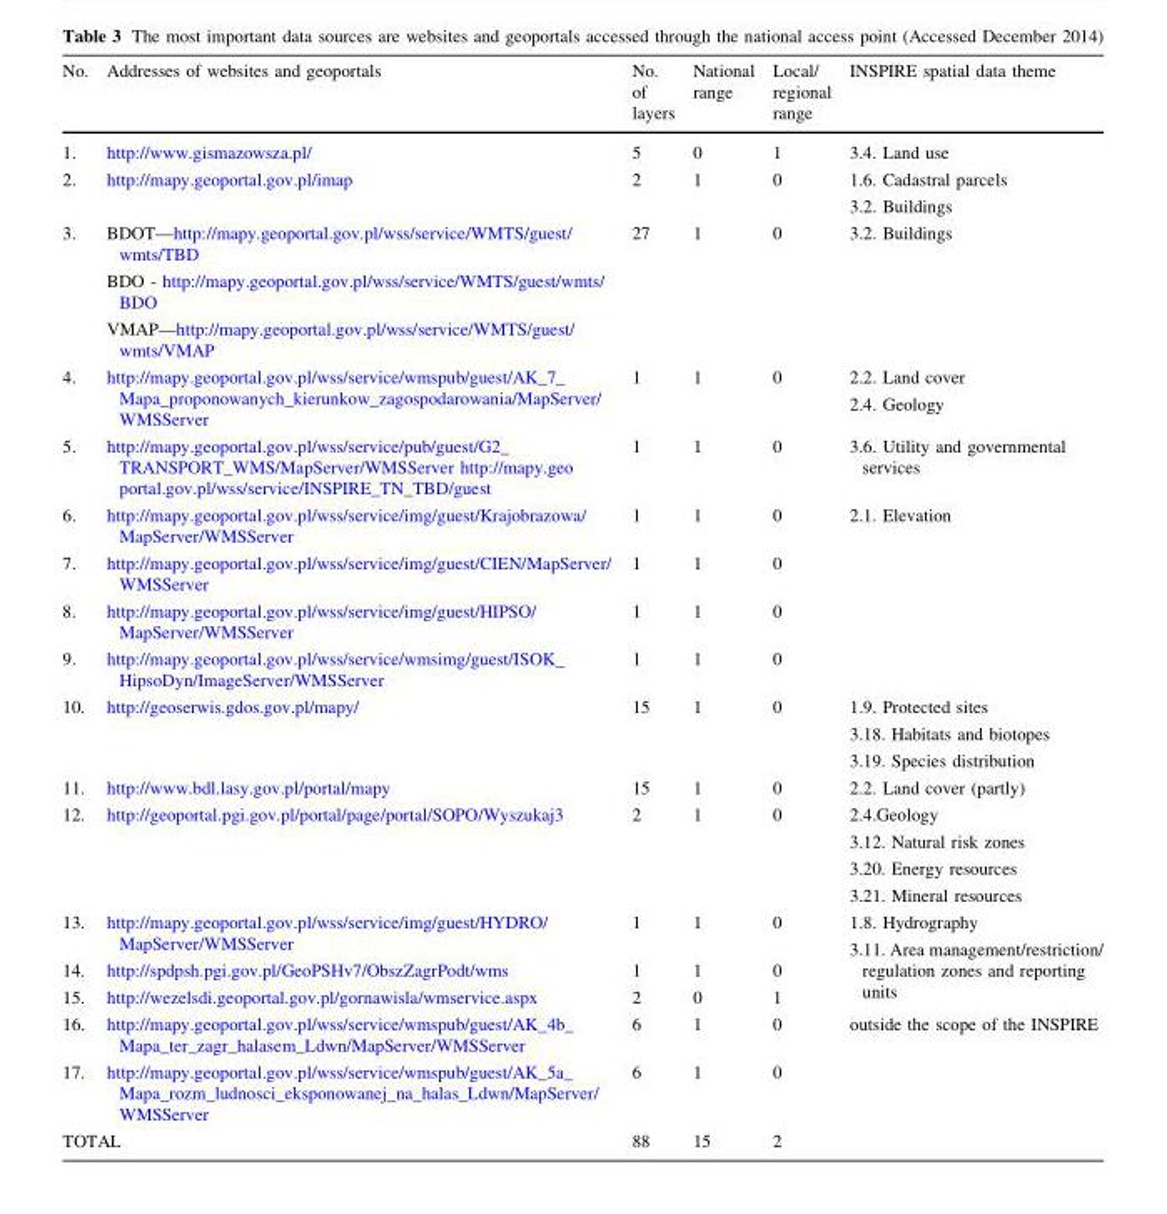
<table><thead><tr><td>No.</td><td>Addresses of websites and geoportals</td><td>No. of layers</td><td>National range</td><td>Local/ regional range</td><td>INSPIRE spatial data theme</td></tr></thead><tbody><tr><td>1.</td><td>http://www.gismazowsza.pl/</td><td>5</td><td>0</td><td>1</td><td>3.4. Land use</td></tr><tr><td>2.</td><td>http://mapy.geoportal.gov.pl/imap</td><td>2</td><td>1</td><td>0</td><td>1.6. Cadastral parcels 3.2. Buildings</td></tr><tr><td>3.</td><td>BDOT—http://mapy.geoportal.gov.pl/wss/service/WMTS/guest/ wmts/TBD BDO - http://mapy.geoportal.gov.pl/wss/service/WMTS/guest/wmts/ BDO VMAP—http://mapy.geoportal.gov.pl/wss/service/WMTS/guest/ wmts/VMAP</td><td>27</td><td>1</td><td>0</td><td>3.2. Buildings</td></tr><tr><td>4.</td><td>http://mapy.geoportal.gov.pl/wss/service/wmspub/guest/AK_7_ Mapa_proponowanych_kierunkow_zagospodarowania/MapServer/ WMSServer</td><td>1</td><td>1</td><td>0</td><td>2.2. Land cover 2.4. Geology</td></tr><tr><td>5.</td><td>http://mapy.geoportal.gov.pl/wss/service/pub/guest/G2_ TRANSPORT_WMS/MapServer/WMSServer http://mapy.geo portal.gov.pl/wss/service/INSPIRE_TN_TBD/guest</td><td>1</td><td>1</td><td>0</td><td>3.6. Utility and governmental services</td></tr><tr><td>6.</td><td>http://mapy.geoportal.gov.pl/wss/service/img/guest/Krajobrazowa/ MapServer/WMSServer</td><td>1</td><td>1</td><td>0</td><td rowspan="4">2.1. Elevation</td></tr><tr><td>7.</td><td>http://mapy.geoportal.gov.pl/wss/service/img/guest/CIEN/MapServer/ WMSServer</td><td>1</td><td>1</td><td>0</td></tr><tr><td>8.</td><td>http://mapy.geoportal.gov.pl/wss/service/img/guest/HIPSO/ MapServer/WMSServer</td><td>1</td><td>1</td><td>0</td></tr><tr><td>9.</td><td>http://mapy.geoportal.gov.pl/wss/service/wmsimg/guest/ISOK_ HipsoDyn/ImageServer/WMSServer</td><td>1</td><td>1</td><td>0</td></tr><tr><td>10.</td><td>http://geoserwis.gdos.gov.pl/mapy/</td><td>15</td><td>1</td><td>0</td><td>1.9. Protected sites 3.18. Habitats and biotopes 3.19. Species distribution</td></tr><tr><td>11.</td><td>http://www.bdl.lasy.gov.pl/portal/mapy</td><td>15</td><td>1</td><td>0</td><td>2.2. Land cover (partly)</td></tr><tr><td>12.</td><td>http://geoportal.pgi.gov.pl/portal/page/portal/SOPO/Wyszukaj3</td><td>2</td><td>1</td><td>0</td><td>2.4.Geology 3.12. Natural risk zones 3.20. Energy resources 3.21. Mineral resources</td></tr><tr><td>13.</td><td>http://mapy.geoportal.gov.pl/wss/service/img/guest/HYDRO/ MapServer/WMSServer</td><td>1</td><td>1</td><td>0</td><td rowspan="3">1.8. Hydrography 3.11. Area management/restriction/ regulation zones and reporting units</td></tr><tr><td>14.</td><td>http://spdpsh.pgi.gov.pl/GeoPSHv7/ObszZagrPodt/wms</td><td>1</td><td>1</td><td>0</td></tr><tr><td>15.</td><td>http://wezelsdi.geoportal.gov.pl/gornawisla/wmservice.aspx</td><td>2</td><td>0</td><td>1</td></tr><tr><td>16.</td><td>http://mapy.geoportal.gov.pl/wss/service/wmspub/guest/AK_4b_ Mapa_ter_zagr_halasem_Ldwn/MapServer/WMSServer</td><td>6</td><td>1</td><td>0</td><td rowspan="2">outside the scope of the INSPIRE</td></tr><tr><td>17.</td><td>http://mapy.geoportal.gov.pl/wss/service/wmspub/guest/AK_5a_ Mapa_rozm_ludnosci_eksponowanej_na_halas_Ldwn/MapServer/ WMSServer</td><td>6</td><td>1</td><td>0</td></tr><tr><td colspan="2">TOTAL</td><td>88</td><td>15</td><td>2</td><td></td></tr></tbody></table>